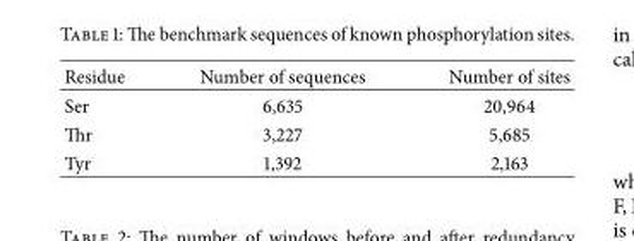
<table><thead><tr><td>Residue</td><td>Number of sequences</td><td>Number of sites</td></tr></thead><tbody><tr><td>Ser</td><td>6,635</td><td>20,964</td></tr><tr><td>Thr</td><td>3,227</td><td>5,685</td></tr><tr><td>Tyr</td><td>1,392</td><td>2,163</td></tr></tbody></table>